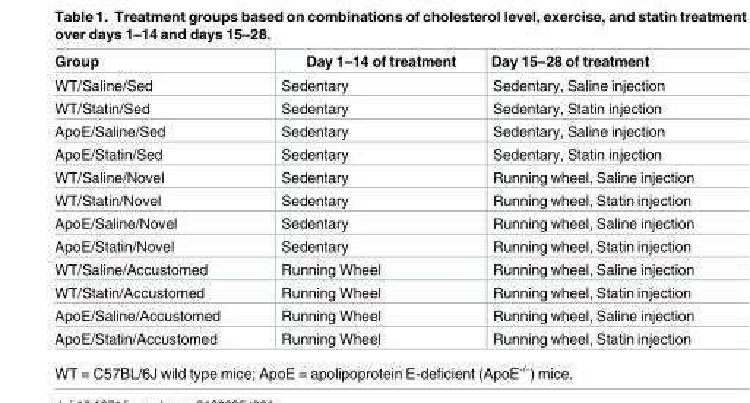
<table><thead><tr><td>Group</td><td>Day 1–14 of treatment</td><td>Day 15–28 of treatment</td></tr></thead><tbody><tr><td>WT/Saline/Sed</td><td>Sedentary</td><td>Sedentary, Saline injection</td></tr><tr><td>WT/Statin/Sed</td><td>Sedentary</td><td>Sedentary, Statin injection</td></tr><tr><td>ApoE/Saline/Sed</td><td>Sedentary</td><td>Sedentary, Saline injection</td></tr><tr><td>ApoE/Statin/Sed</td><td>Sedentary</td><td>Sedentary, Statin injection</td></tr><tr><td>WT/Saline/Novel</td><td>Sedentary</td><td>Running wheel, Saline injection</td></tr><tr><td>WT/Statin/Novel</td><td>Sedentary</td><td>Running wheel, Statin injection</td></tr><tr><td>ApoE/Saline/Novel</td><td>Sedentary</td><td>Running wheel, Saline injection</td></tr><tr><td>ApoE/Statin/Novel</td><td>Sedentary</td><td>Running wheel, Statin injection</td></tr><tr><td>WT/Saline/Accustomed</td><td>Running Wheel</td><td>Running wheel, Saline injection</td></tr><tr><td>WT/Statin/Accustomed</td><td>Running Wheel</td><td>Running wheel, Statin injection</td></tr><tr><td>ApoE/Saline/Accustomed</td><td>Running Wheel</td><td>Running wheel, Saline injection</td></tr><tr><td>ApoE/Statin/Accustomed</td><td>Running Wheel</td><td>Running wheel, Statin injection</td></tr></tbody></table>